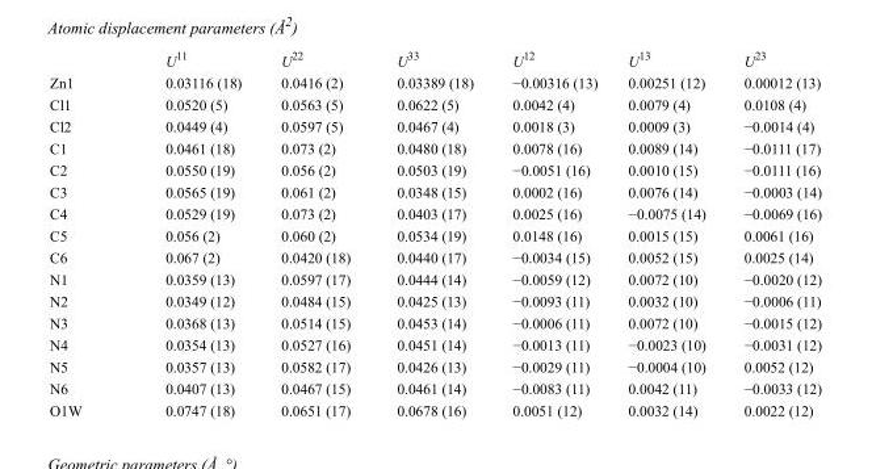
<table><thead><tr><td></td><td>U<sup>11</sup></td><td>U<sup>22</sup></td><td>U<sup>33</sup></td><td>U<sup>12</sup></td><td>U<sup>13</sup></td><td>U<sup>23</sup></td></tr></thead><tbody><tr><td>Zn1</td><td>0.03116 (18)</td><td>0.0416 (2)</td><td>0.03389 (18)</td><td>−0.00316 (13)</td><td>0.00251 (12)</td><td>0.00012 (13)</td></tr><tr><td>Cl1</td><td>0.0520 (5)</td><td>0.0563 (5)</td><td>0.0622 (5)</td><td>0.0042 (4)</td><td>0.0079 (4)</td><td>0.0108 (4)</td></tr><tr><td>Cl2</td><td>0.0449 (4)</td><td>0.0597 (5)</td><td>0.0467 (4)</td><td>0.0018 (3)</td><td>0.0009 (3)</td><td>−0.0014 (4)</td></tr><tr><td>C1</td><td>0.0461 (18)</td><td>0.073 (2)</td><td>0.0480 (18)</td><td>0.0078 (16)</td><td>0.0089 (14)</td><td>−0.0111 (17)</td></tr><tr><td>C2</td><td>0.0550 (19)</td><td>0.056 (2)</td><td>0.0503 (19)</td><td>−0.0051 (16)</td><td>0.0010 (15)</td><td>−0.0111 (16)</td></tr><tr><td>C3</td><td>0.0565 (19)</td><td>0.061 (2)</td><td>0.0348 (15)</td><td>0.0002 (16)</td><td>0.0076 (14)</td><td>−0.0003 (14)</td></tr><tr><td>C4</td><td>0.0529 (19)</td><td>0.073 (2)</td><td>0.0403 (17)</td><td>0.0025 (16)</td><td>−0.0075 (14)</td><td>−0.0069 (16)</td></tr><tr><td>C5</td><td>0.056 (2)</td><td>0.060 (2)</td><td>0.0534 (19)</td><td>0.0148 (16)</td><td>0.0015 (15)</td><td>0.0061 (16)</td></tr><tr><td>C6</td><td>0.067 (2)</td><td>0.0420 (18)</td><td>0.0440 (17)</td><td>−0.0034 (15)</td><td>0.0052 (15)</td><td>0.0025 (14)</td></tr><tr><td>N1</td><td>0.0359 (13)</td><td>0.0597 (17)</td><td>0.0444 (14)</td><td>−0.0059 (12)</td><td>0.0072 (10)</td><td>−0.0020 (12)</td></tr><tr><td>N2</td><td>0.0349 (12)</td><td>0.0484 (15)</td><td>0.0425 (13)</td><td>−0.0093 (11)</td><td>0.0032 (10)</td><td>−0.0006 (11)</td></tr><tr><td>N3</td><td>0.0368 (13)</td><td>0.0514 (15)</td><td>0.0453 (14)</td><td>−0.0006 (11)</td><td>0.0072 (10)</td><td>−0.0015 (12)</td></tr><tr><td>N4</td><td>0.0354 (13)</td><td>0.0527 (16)</td><td>0.0451 (14)</td><td>−0.0013 (11)</td><td>−0.0023 (10)</td><td>−0.0031 (12)</td></tr><tr><td>N5</td><td>0.0357 (13)</td><td>0.0582 (17)</td><td>0.0426 (13)</td><td>−0.0029 (11)</td><td>−0.0004 (10)</td><td>0.0052 (12)</td></tr><tr><td>N6</td><td>0.0407 (13)</td><td>0.0467 (15)</td><td>0.0461 (14)</td><td>−0.0083 (11)</td><td>0.0042 (11)</td><td>−0.0033 (12)</td></tr><tr><td>O1W</td><td>0.0747 (18)</td><td>0.0651 (17)</td><td>0.0678 (16)</td><td>0.0051 (12)</td><td>0.0032 (14)</td><td>0.0022 (12)</td></tr></tbody></table>